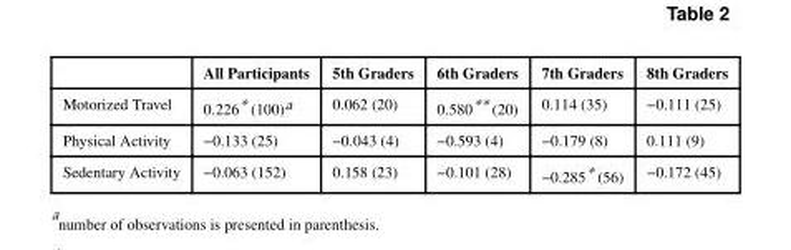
<table><thead><tr><td></td><td>All Participants</td><td>5th Graders</td><td>6th Graders</td><td>7th Graders</td><td>8th Graders</td></tr></thead><tbody><tr><td>Motorized Travel</td><td>0.226* (100)<sup>a</sup></td><td>0.062 (20)</td><td>0.580** (20)</td><td>0.114 (35)</td><td>−0.111 (25)</td></tr><tr><td>Physical Activity</td><td>−0.133 (25)</td><td>−0.043 (4)</td><td>−0.593 (4)</td><td>−0.179 (8)</td><td>0.111 (9)</td></tr><tr><td>Sedentary Activity</td><td>−0.063 (152)</td><td>0.158 (23)</td><td>−0.101 (28)</td><td>−0.285* (56)</td><td>−0.172 (45)</td></tr></tbody></table>